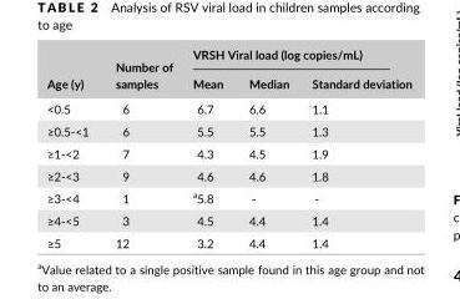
<table><thead><tr><td rowspan="2">Age (y)</td><td rowspan="2">Number of samples</td><td colspan="3">VRSH Viral load (log copies/mL)</td></tr><tr><td>Mean</td><td>Median</td><td>Standard deviation</td></tr></thead><tbody><tr><td>&lt;0.5</td><td>6</td><td>6.7</td><td>6.6</td><td>1.1</td></tr><tr><td>≥0.5- &lt;1</td><td>6</td><td>5.5</td><td>5.5</td><td>1.3</td></tr><tr><td>≥1- &lt;2</td><td>7</td><td>4.3</td><td>4.5</td><td>1.9</td></tr><tr><td>≥2- &lt;3</td><td>9</td><td>4.6</td><td>4.6</td><td>1.8</td></tr><tr><td>≥3- &lt;4</td><td>1</td><td>a5.8</td><td>-</td><td>-</td></tr><tr><td>≥4- &lt;5</td><td>3</td><td>4.5</td><td>4.4</td><td>1.4</td></tr><tr><td>≥5</td><td>12</td><td>3.2</td><td>4.4</td><td>1.4</td></tr></tbody></table>